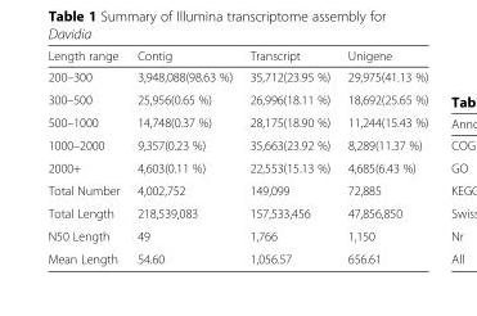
<table><thead><tr><td>Length range</td><td>Contig</td><td>Transcript</td><td>Unigene</td></tr></thead><tbody><tr><td>200–300</td><td>3,948,088(98.63 %)</td><td>35,712(23.95 %)</td><td>29,975(41.13 %)</td></tr><tr><td>300–500</td><td>25,956(0.65 %)</td><td>26,996(18.11 %)</td><td>18,692(25.65 %)</td></tr><tr><td>500–1000</td><td>14,748(0.37 %)</td><td>28,175(18.90 %)</td><td>11,244(15.43 %)</td></tr><tr><td>1000–2000</td><td>9,357(0.23 %)</td><td>35,663(23.92 %)</td><td>8,289(11.37 %)</td></tr><tr><td>2000+</td><td>4,603(0.11 %)</td><td>22,553(15.13 %)</td><td>4,685(6.43 %)</td></tr><tr><td>Total Number</td><td>4,002,752</td><td>149,099</td><td>72,885</td></tr><tr><td>Total Length</td><td>218,539,083</td><td>157,533,456</td><td>47,856,850</td></tr><tr><td>N50 Length</td><td>49</td><td>1,766</td><td>1,150</td></tr><tr><td>Mean Length</td><td>54.60</td><td>1,056.57</td><td>656.61</td></tr></tbody></table>